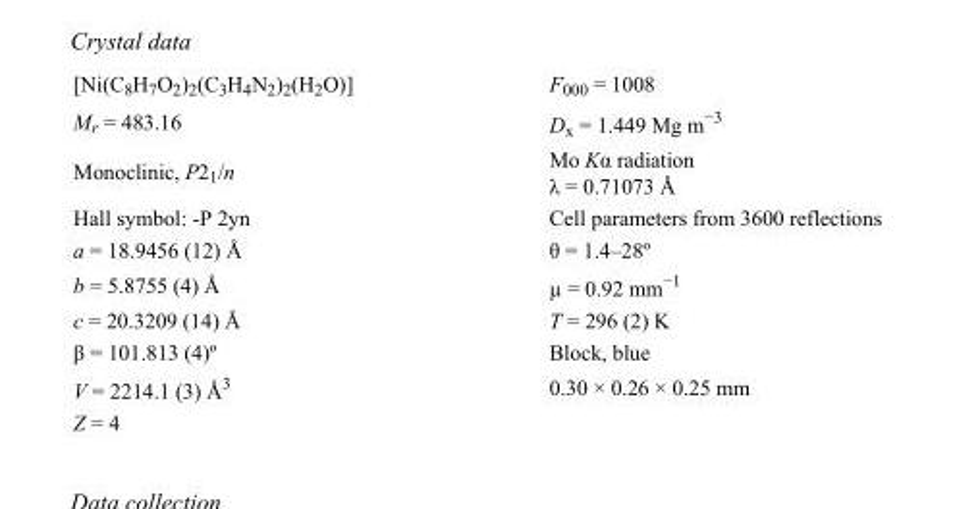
<table><tbody><tr><td>[Ni(C<sub>8</sub>H<sub>7</sub>O<sub>2</sub>)<sub>2</sub>(C<sub>3</sub>H<sub>4</sub>N<sub>2</sub>)<sub>2</sub>(H<sub>2</sub>O)]</td><td>F<sub>000</sub> = 1008</td></tr><tr><td>M<sub>r</sub> = 483.16</td><td>D<sub>x</sub> = 1.449 Mg m<sup>−3</sup></td></tr><tr><td>Monoclinic, P2<sub>1</sub>/n</td><td>Mo Kα radiation λ = 0.71073 Å</td></tr><tr><td>Hall symbol: -P 2yn</td><td>Cell parameters from 3600 reflections</td></tr><tr><td>a = 18.9456 (12) Å</td><td>θ = 1.4–28º</td></tr><tr><td>b = 5.8755 (4) Å</td><td>µ = 0.92 mm<sup>−1</sup></td></tr><tr><td>c = 20.3209 (14) Å</td><td>T = 296 (2) K</td></tr><tr><td>β = 101.813 (4)º</td><td>Block, blue</td></tr><tr><td>V = 2214.1 (3) Å<sup>3</sup></td><td>0.30 × 0.26 × 0.25 mm</td></tr><tr><td>Z = 4</td><td></td></tr></tbody></table>